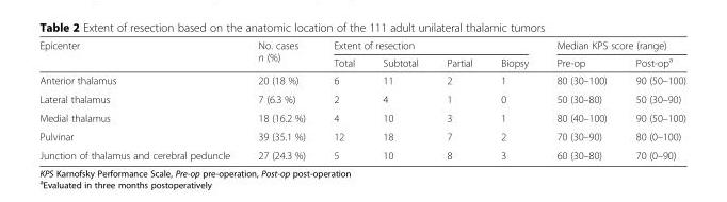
<table><thead><tr><td rowspan="2">Epicenter</td><td rowspan="2">No. cases n (%)</td><td colspan="4">Extent of resection</td><td colspan="2">Median KPS score (range)</td></tr><tr><td>Total</td><td>Subtotal</td><td>Partial</td><td>Biopsy</td><td>Pre-op</td><td>Post-op<sup>a</sup></td></tr></thead><tbody><tr><td>Anterior thalamus</td><td>20 (18 %)</td><td>6</td><td>11</td><td>2</td><td>1</td><td>80 (30–100)</td><td>90 (50–100)</td></tr><tr><td>Lateral thalamus</td><td>7 (6.3 %)</td><td>2</td><td>4</td><td>1</td><td>0</td><td>50 (30–80)</td><td>50 (30–90)</td></tr><tr><td>Medial thalamus</td><td>18 (16.2 %)</td><td>4</td><td>10</td><td>3</td><td>1</td><td>80 (40–100)</td><td>90 (50–100)</td></tr><tr><td>Pulvinar</td><td>39 (35.1 %)</td><td>12</td><td>18</td><td>7</td><td>2</td><td>70 (30–90)</td><td>80 (0–100)</td></tr><tr><td>Junction of thalamus and cerebral peduncle</td><td>27 (24.3 %)</td><td>5</td><td>10</td><td>8</td><td>3</td><td>60 (30–80)</td><td>70 (0–90)</td></tr></tbody></table>